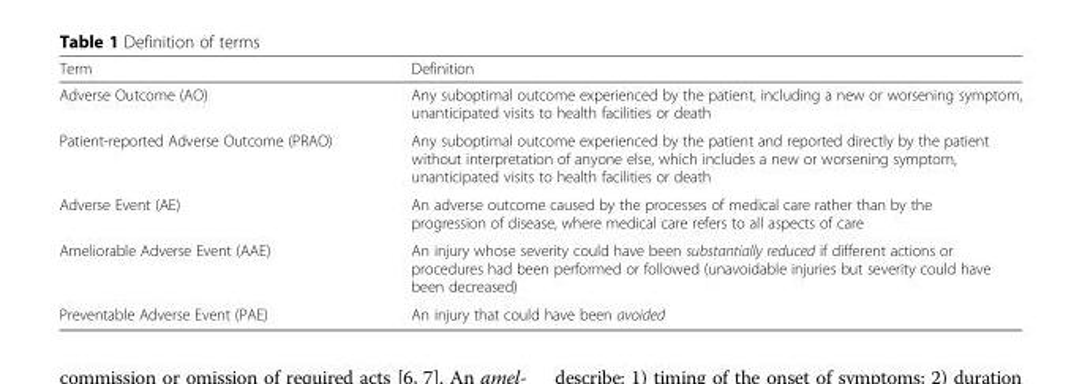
<table><thead><tr><td>Term</td><td>Definition</td></tr></thead><tbody><tr><td>Adverse Outcome (AO)</td><td>Any suboptimal outcome experienced by the patient, including a new or worsening symptom, unanticipated visits to health facilities or death</td></tr><tr><td>Patient-reported Adverse Outcome (PRAO)</td><td>Any suboptimal outcome experienced by the patient and reported directly by the patient without interpretation of anyone else, which includes a new or worsening symptom, unanticipated visits to health facilities or death</td></tr><tr><td>Adverse Event (AE)</td><td>An adverse outcome caused by the processes of medical care rather than by the progression of disease, where medical care refers to all aspects of care</td></tr><tr><td>Ameliorable Adverse Event (AAE)</td><td>An injury whose severity could have been substantially reduced if different actions or procedures had been performed or followed (unavoidable injuries but severity could have been decreased)</td></tr><tr><td>Preventable Adverse Event (PAE)</td><td>An injury that could have been avoided</td></tr></tbody></table>